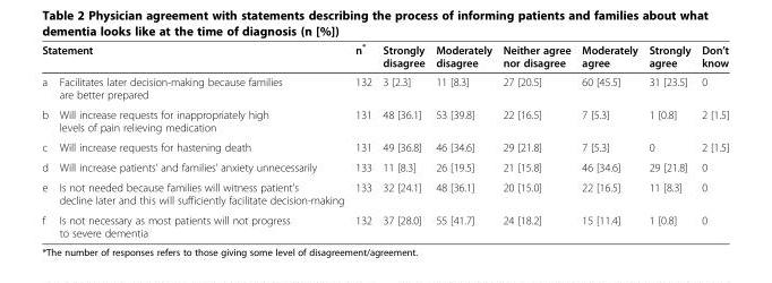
<table><thead><tr><td colspan="2">Statement</td><td rowspan="2">n* 132</td><td rowspan="2">Strongly disagree 3 [2.3]</td><td rowspan="2">Moderately disagree 11 [8.3]</td><td rowspan="2">Neither agree nor disagree 27 [20.5]</td><td rowspan="2">Moderately agree 60 [45.5]</td><td rowspan="2">Strongly agree 31 [23.5]</td><td rowspan="2">Don’t know 0</td></tr><tr><td>a</td><td>Facilitates later decision-making because families are better prepared</td></tr></thead><tbody><tr><td>b</td><td>Will increase requests for inappropriately high levels of pain relieving medication</td><td>131</td><td>48 [36.1]</td><td>53 [39.8]</td><td>22 [16.5]</td><td>7 [5.3]</td><td>1 [0.8]</td><td>2 [1.5]</td></tr><tr><td>c</td><td>Will increase requests for hastening death</td><td>131</td><td>49 [36.8]</td><td>46 [34.6]</td><td>29 [21.8]</td><td>7 [5.3]</td><td>0</td><td>2 [1.5]</td></tr><tr><td>d</td><td>Will increase patients’ and families’ anxiety unnecessarily</td><td>133</td><td>11 [8.3]</td><td>26 [19.5]</td><td>21 [15.8]</td><td>46 [34.6]</td><td>29 [21.8]</td><td>0</td></tr><tr><td>e</td><td>Is not needed because families will witness patient’s decline later and this will sufficiently facilitate decision-making</td><td>133</td><td>32 [24.1]</td><td>48 [36.1]</td><td>20 [15.0]</td><td>22 [16.5]</td><td>11 [8.3]</td><td>0</td></tr><tr><td>f</td><td>Is not necessary as most patients will not progress to severe dementia</td><td>132</td><td>37 [28.0]</td><td>55 [41.7]</td><td>24 [18.2]</td><td>15 [11.4]</td><td>1 [0.8]</td><td>0</td></tr></tbody></table>